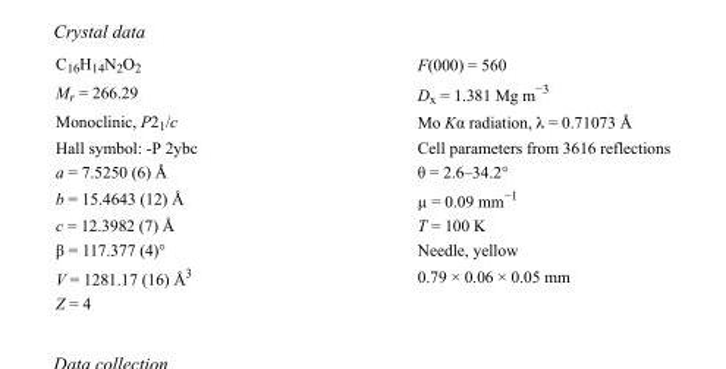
<table><tbody><tr><td>C<sub>16</sub>H<sub>14</sub>N<sub>2</sub>O<sub>2</sub></td><td>F(000) = 560</td></tr><tr><td>M<sub>r</sub> = 266.29</td><td>D<sub>x</sub> = 1.381 Mg m<sup>−3</sup></td></tr><tr><td>Monoclinic, P2<sub>1</sub>/c</td><td>Mo Kα radiation, λ = 0.71073 Å</td></tr><tr><td>Hall symbol: -P 2ybc</td><td>Cell parameters from 3616 reflections</td></tr><tr><td>a = 7.5250 (6) Å</td><td>θ = 2.6–34.2°</td></tr><tr><td>b = 15.4643 (12) Å</td><td>µ = 0.09 mm<sup>−1</sup></td></tr><tr><td>c = 12.3982 (7) Å</td><td>T = 100 K</td></tr><tr><td>β = 117.377 (4)°</td><td>Needle, yellow</td></tr><tr><td>V = 1281.17 (16) Å<sup>3</sup></td><td>0.79 × 0.06 × 0.05 mm</td></tr><tr><td>Z = 4</td><td></td></tr></tbody></table>